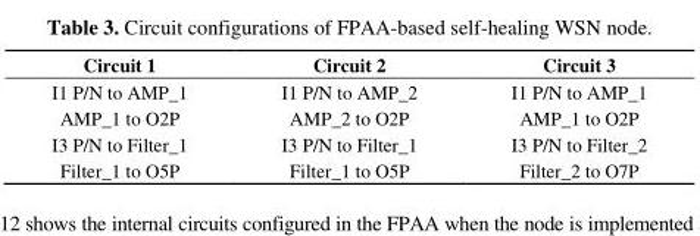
<table><thead><tr><td>Circuit 1</td><td>Circuit 2</td><td>Circuit 3</td></tr></thead><tbody><tr><td>I1 P/N to AMP_1</td><td>I1 P/N to AMP_2</td><td>I1 P/N to AMP_1</td></tr><tr><td>AMP_1 to O2P</td><td>AMP_2 to O2P</td><td>AMP_1 to O2P</td></tr><tr><td>I3 P/N to Filter_1</td><td>I3 P/N to Filter_1</td><td>I3 P/N to Filter_2</td></tr><tr><td>Filter_1 to O5P</td><td>Filter_1 to O5P</td><td>Filter_2 to O7P</td></tr></tbody></table>